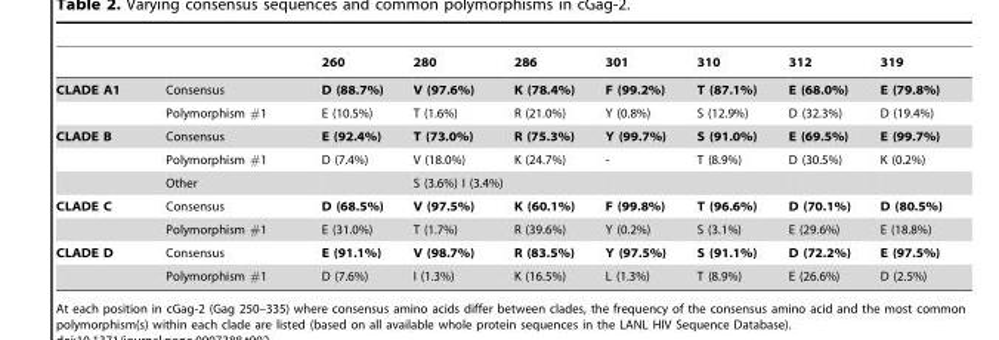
<table><thead><tr><td></td><td></td><td>260</td><td>280</td><td>286</td><td>301</td><td>310</td><td>312</td><td>319</td></tr></thead><tbody><tr><td rowspan="2">CLADE A1</td><td>Consensus</td><td>D (88.7%)</td><td>V (97.6%)</td><td>K (78.4%)</td><td>F (99.2%)</td><td>T (87.1%)</td><td>E (68.0%)</td><td>E (79.8%)</td></tr><tr><td>Polymorphism #1</td><td>E (10.5%)</td><td>T (1.6%)</td><td>R (21.0%)</td><td>Y (0.8%)</td><td>S (12.9%)</td><td>D (32.3%)</td><td>D (19.4%)</td></tr><tr><td rowspan="3">CLADE B</td><td>Consensus</td><td>E (92.4%)</td><td>T (73.0%)</td><td>R (75.3%)</td><td>Y (99.7%)</td><td>S (91.0%)</td><td>E (69.5%)</td><td>E (99.7%)</td></tr><tr><td>Polymorphism #1</td><td>D (7.4%)</td><td>V (18.0%)</td><td>K (24.7%)</td><td>-</td><td>T (8.9%)</td><td>D (30.5%)</td><td>K (0.2%)</td></tr><tr><td>Other</td><td></td><td>S (3.6%) I (3.4%)</td><td></td><td></td><td></td><td></td><td></td></tr><tr><td rowspan="2">CLADE C</td><td>Consensus</td><td>D (68.5%)</td><td>V (97.5%)</td><td>K (60.1%)</td><td>F (99.8%)</td><td>T (96.6%)</td><td>D (70.1%)</td><td>D (80.5%)</td></tr><tr><td>Polymorphism #1</td><td>E (31.0%)</td><td>T (1.7%)</td><td>R (39.6%)</td><td>Y (0.2%)</td><td>S (3.1%)</td><td>E (29.6%)</td><td>E (18.8%)</td></tr><tr><td rowspan="2">CLADE D</td><td>Consensus</td><td>E (91.1%)</td><td>V (98.7%)</td><td>R (83.5%)</td><td>Y (97.5%)</td><td>S (91.1%)</td><td>D (72.2%)</td><td>E (97.5%)</td></tr><tr><td>Polymorphism #1</td><td>D (7.6%)</td><td>I (1.3%)</td><td>K (16.5%)</td><td>L (1.3%)</td><td>T (8.9%)</td><td>E (26.6%)</td><td>D (2.5%)</td></tr></tbody></table>